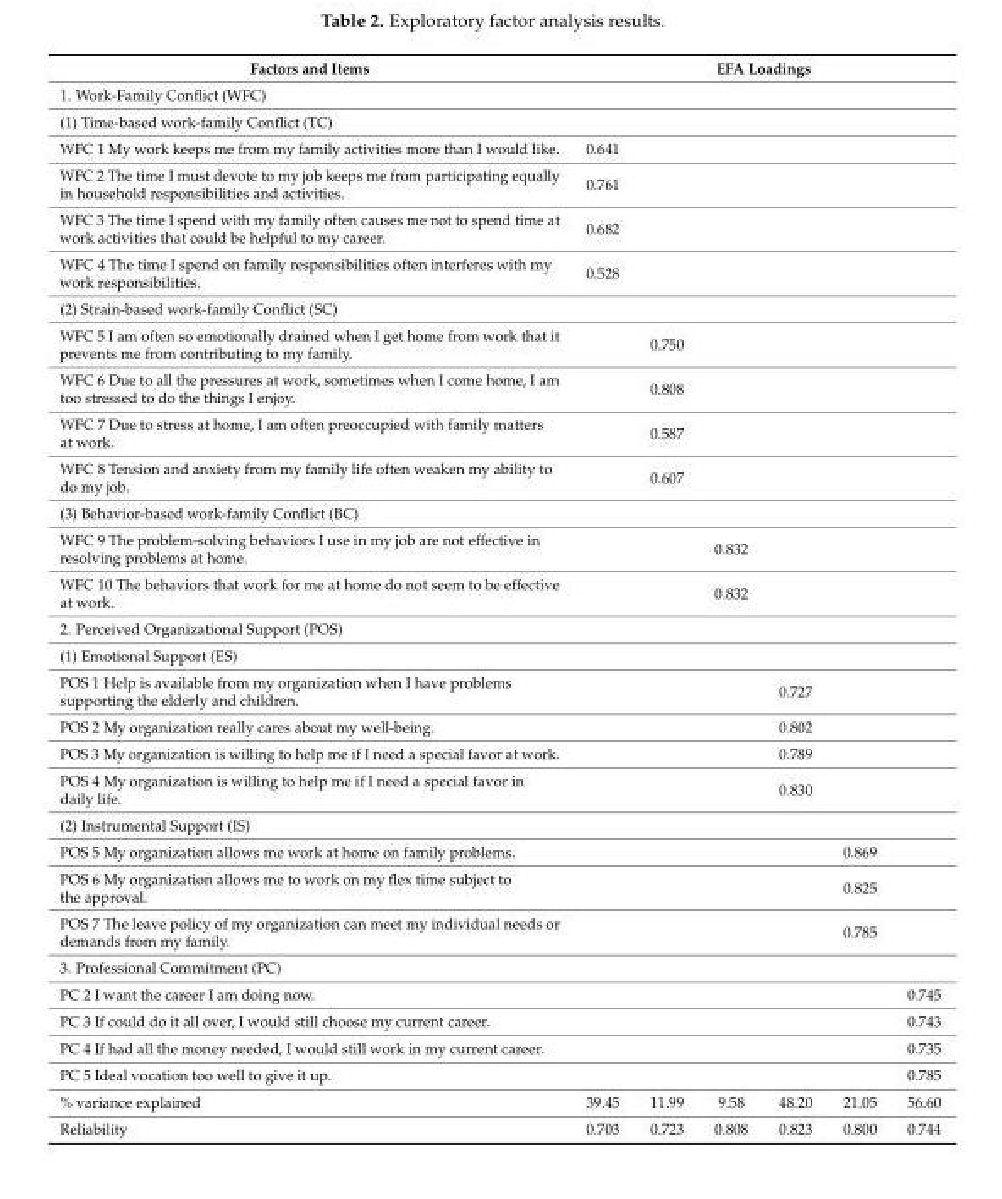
<table><thead><tr><td rowspan="2">Factors and Items 1. Work-Family Conflict (WFC)</td><td colspan="6">EFA Loadings</td></tr><tr><td></td><td></td><td></td><td></td><td></td><td></td></tr></thead><tbody><tr><td colspan="7">(1) Time-based work-family Conflict (TC)</td></tr><tr><td>WFC 1 My work keeps me from my family activities more than I would like.</td><td>0.641</td><td></td><td></td><td></td><td></td><td></td></tr><tr><td>WFC 2 The time I must devote to my job keeps me from participating equally in household responsibilities and activities.</td><td>0.761</td><td></td><td></td><td></td><td></td><td></td></tr><tr><td>WFC 3 The time I spend with my family often causes me not to spend time at work activities that could be helpful to my career.</td><td>0.682</td><td></td><td></td><td></td><td></td><td></td></tr><tr><td>WFC 4 The time I spend on family responsibilities often interferes with my work responsibilities.</td><td>0.528</td><td></td><td></td><td></td><td></td><td></td></tr><tr><td colspan="7">(2) Strain-based work-family Conflict (SC)</td></tr><tr><td>WFC 5 I am often so emotionally drained when I get home from work that it prevents me from contributing to my family.</td><td></td><td>0.750</td><td></td><td></td><td></td><td></td></tr><tr><td>WFC 6 Due to all the pressures at work, sometimes when I come home, I am too stressed to do the things I enjoy.</td><td></td><td>0.808</td><td></td><td></td><td></td><td></td></tr><tr><td>WFC 7 Due to stress at home, I am often preoccupied with family matters at work.</td><td></td><td>0.587</td><td></td><td></td><td></td><td></td></tr><tr><td>WFC 8 Tension and anxiety from my family life often weaken my ability to do my job.</td><td></td><td>0.607</td><td></td><td></td><td></td><td></td></tr><tr><td colspan="7">(3) Behavior-based work-family Conflict (BC)</td></tr><tr><td>WFC 9 The problem-solving behaviors I use in my job are not effective in resolving problems at home.</td><td></td><td></td><td>0.832</td><td></td><td></td><td></td></tr><tr><td>WFC 10 The behaviors that work for me at home do not seem to be effective at work.</td><td></td><td></td><td>0.832</td><td></td><td></td><td></td></tr><tr><td colspan="7">2. Perceived Organizational Support (POS)</td></tr><tr><td colspan="7">(1) Emotional Support (ES)</td></tr><tr><td>POS 1 Help is available from my organization when I have problems supporting the elderly and children.</td><td></td><td></td><td></td><td>0.727</td><td></td><td></td></tr><tr><td>POS 2 My organization really cares about my well-being.</td><td></td><td></td><td></td><td>0.802</td><td></td><td></td></tr><tr><td>POS 3 My organization is willing to help me if I need a special favor at work.</td><td></td><td></td><td></td><td>0.789</td><td></td><td></td></tr><tr><td>POS 4 My organization is willing to help me if I need a special favor in daily life.</td><td></td><td></td><td></td><td>0.830</td><td></td><td></td></tr><tr><td colspan="7">(2) Instrumental Support (IS)</td></tr><tr><td>POS 5 My organization allows me work at home on family problems.</td><td></td><td></td><td></td><td></td><td>0.869</td><td></td></tr><tr><td>POS 6 My organization allows me to work on my flex time subject to the approval.</td><td></td><td></td><td></td><td></td><td>0.825</td><td></td></tr><tr><td>POS 7 The leave policy of my organization can meet my individual needs or demands from my family.</td><td></td><td></td><td></td><td></td><td>0.785</td><td></td></tr><tr><td colspan="7">3. Professional Commitment (PC)</td></tr><tr><td>PC 2 I want the career I am doing now.</td><td></td><td></td><td></td><td></td><td></td><td>0.745</td></tr><tr><td>PC 3 If could do it all over, I would still choose my current career.</td><td></td><td></td><td></td><td></td><td></td><td>0.743</td></tr><tr><td>PC 4 If had all the money needed, I would still work in my current career.</td><td></td><td></td><td></td><td></td><td></td><td>0.735</td></tr><tr><td>PC 5 Ideal vocation too well to give it up.</td><td></td><td></td><td></td><td></td><td></td><td>0.785</td></tr><tr><td>% variance explained</td><td>39.45</td><td>11.99</td><td>9.58</td><td>48.20</td><td>21.05</td><td>56.60</td></tr><tr><td>Reliability</td><td>0.703</td><td>0.723</td><td>0.808</td><td>0.823</td><td>0.800</td><td>0.744</td></tr></tbody></table>